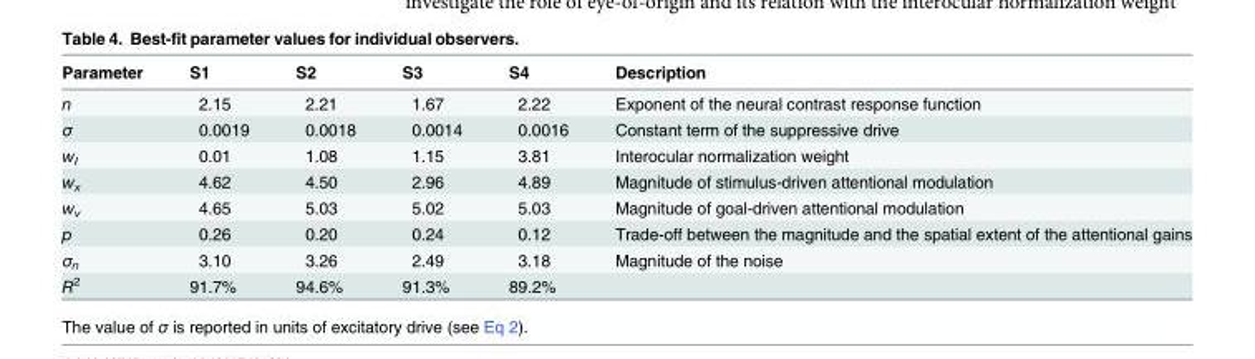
<table><thead><tr><td>Parameter</td><td>S1</td><td>S2</td><td>S3</td><td>S4</td><td>Description</td></tr></thead><tbody><tr><td>n</td><td>2.15</td><td>2.21</td><td>1.67</td><td>2.22</td><td>Exponent of the neural contrast response function</td></tr><tr><td>σ</td><td>0.0019</td><td>0.0018</td><td>0.0014</td><td>0.0016</td><td>Constant term of the suppressive drive</td></tr><tr><td>w<sub>I</sub></td><td>0.01</td><td>1.08</td><td>1.15</td><td>3.81</td><td>Interocular normalization weight</td></tr><tr><td>w<sub>x</sub></td><td>4.62</td><td>4.50</td><td>2.96</td><td>4.89</td><td>Magnitude of stimulus-driven attentional modulation</td></tr><tr><td>w<sub>v</sub></td><td>4.65</td><td>5.03</td><td>5.02</td><td>5.03</td><td>Magnitude of goal-driven attentional modulation</td></tr><tr><td>p</td><td>0.26</td><td>0.20</td><td>0.24</td><td>0.12</td><td>Trade-off between the magnitude and the spatial extent of the attentional gains</td></tr><tr><td>σ<sub>n</sub></td><td>3.10</td><td>3.26</td><td>2.49</td><td>3.18</td><td>Magnitude of the noise</td></tr><tr><td>R<sup>2</sup></td><td>91.7%</td><td>94.6%</td><td>91.3%</td><td>89.2%</td><td></td></tr></tbody></table>